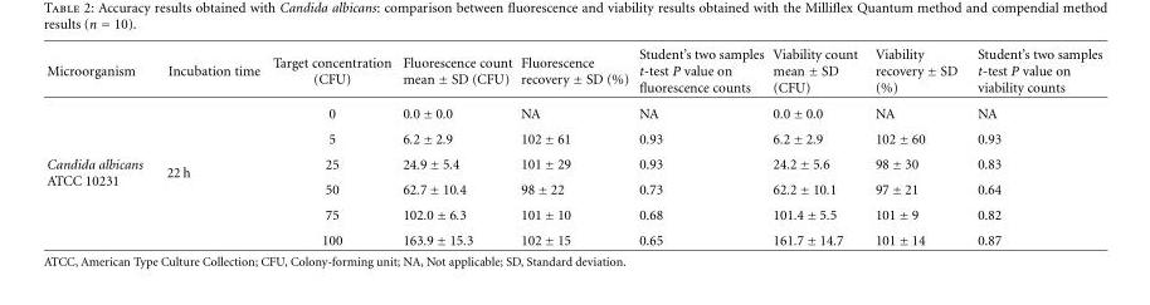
<table><thead><tr><td>Microorganism</td><td>Incubation time</td><td>Target concentration (CFU)</td><td>Fluorescence count mean ± SD (CFU)</td><td>Fluorescence recovery ± SD (%)</td><td>Student’s two samples t-test P value on fluorescence counts</td><td>Viability count mean ± SD (CFU)</td><td>Viability recovery ± SD (%)</td><td>Student’s two samples t-test P value on viability counts</td></tr></thead><tbody><tr><td></td><td></td><td>0</td><td>0.0 ± 0.0</td><td>NA</td><td>NA</td><td>0.0 ± 0.0</td><td>NA</td><td>NA</td></tr><tr><td></td><td></td><td>5</td><td>6.2 ± 2.9</td><td>102 ± 61</td><td>0.93</td><td>6.2 ± 2.9</td><td>102 ± 60</td><td>0.93</td></tr><tr><td rowspan="4">Candida albicans ATCC 10231</td><td rowspan="2">22 h</td><td>25</td><td>24.9 ± 5.4</td><td>101 ± 29</td><td>0.93</td><td>24.2 ± 5.6</td><td>98 ± 30</td><td>0.83</td></tr><tr><td>50</td><td>62.7 ± 10.4</td><td>98 ± 22</td><td>0.73</td><td>62.2 ± 10.1</td><td>97 ± 21</td><td>0.64</td></tr><tr><td></td><td>75</td><td>102.0 ± 6.3</td><td>101 ± 10</td><td>0.68</td><td>101.4 ± 5.5</td><td>101 ± 9</td><td>0.82</td></tr><tr><td></td><td>100</td><td>163.9 ± 15.3</td><td>102 ± 15</td><td>0.65</td><td>161.7 ± 14.7</td><td>101 ± 14</td><td>0.87</td></tr></tbody></table>